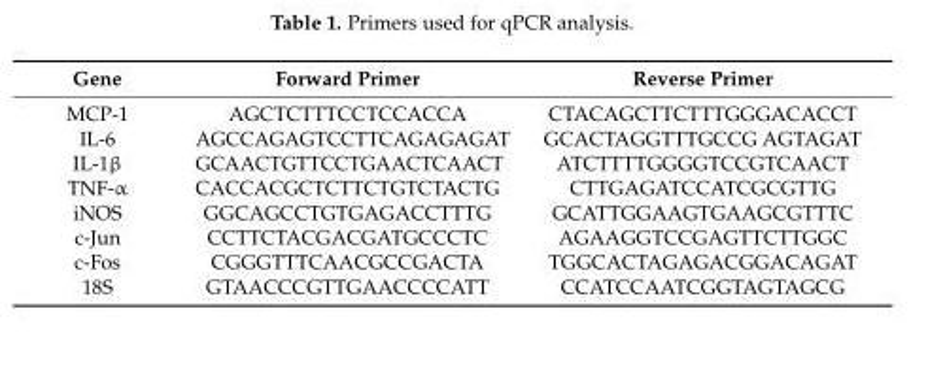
<table><thead><tr><td>Gene</td><td>Forward Primer</td><td>Reverse Primer</td></tr></thead><tbody><tr><td>MCP-1</td><td>AGCTCTTTCCTCCACCA</td><td>CTACAGCTTCTTTGGGACACCT</td></tr><tr><td>IL-6</td><td>AGCCAGAGTCCTTCAGAGAGAT</td><td>GCACTAGGTTTGCCG AGTAGAT</td></tr><tr><td>IL-1β</td><td>GCAACTGTTCCTGAACTCAACT</td><td>ATCTTTTGGGGTCCGTCAACT</td></tr><tr><td>TNF-α</td><td>CACCACGCTCTTCTGTCTACTG</td><td>CTTGAGATCCATCGCGTTG</td></tr><tr><td>iNOS</td><td>GGCAGCCTGTGAGACCTTTG</td><td>GCATTGGAAGTGAAGCGTTTC</td></tr><tr><td>c-Jun</td><td>CCTTCTACGACGATGCCCTC</td><td>AGAAGGTCCGAGTTCTTGGC</td></tr><tr><td>c-Fos</td><td>CGGGTTTCAACGCCGACTA</td><td>TGGCACTAGAGACGGACAGAT</td></tr><tr><td>18S</td><td>GTAACCCGTTGAACCCCATT</td><td>CCATCCAATCGGTAGTAGCG</td></tr></tbody></table>